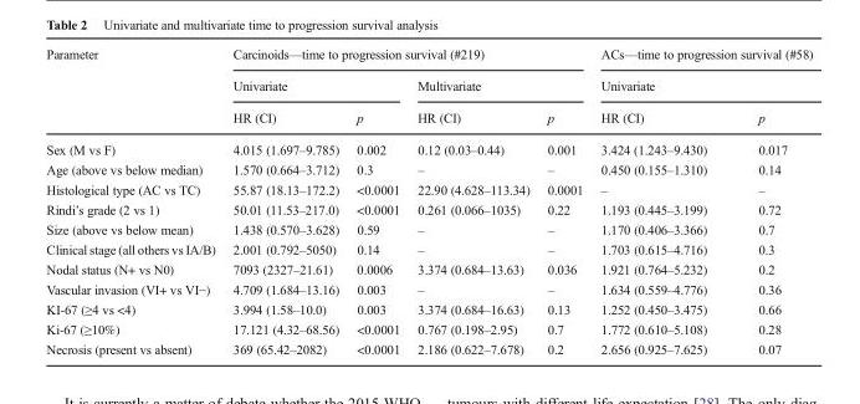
<table><thead><tr><td rowspan="3">Parameter</td><td colspan="4">Carcinoids—time to progression survival (#219)</td><td rowspan="2" colspan="2">ACs—time to progression survival (#58) Univariate</td></tr><tr><td colspan="2">Univariate</td><td colspan="2">Multivariate</td></tr><tr><td>HR (CI)</td><td>p</td><td>HR (CI)</td><td>p</td><td>HR (CI)</td><td>p</td></tr></thead><tbody><tr><td>Sex (M vs F)</td><td>4.015 (1.697–9.785)</td><td>0.002</td><td>0.12 (0.03–0.44)</td><td>0.001</td><td>3.424 (1.243–9.430)</td><td>0.017</td></tr><tr><td>Age (above vs below median)</td><td>1.570 (0.664–3.712)</td><td>0.3</td><td>–</td><td>–</td><td>0.450 (0.155–1.310)</td><td>0.14</td></tr><tr><td>Histological type (AC vs TC)</td><td>55.87 (18.13–172.2)</td><td>&lt;0.0001</td><td>22.90 (4.628–113.34)</td><td>0.0001</td><td>–</td><td>–</td></tr><tr><td>Rindi’s grade (2 vs 1)</td><td>50.01 (11.53–217.0)</td><td>&lt;0.0001</td><td>0.261 (0.066–1035)</td><td>0.22</td><td>1.193 (0.445–3.199)</td><td>0.72</td></tr><tr><td>Size (above vs below mean)</td><td>1.438 (0.570–3.628)</td><td>0.59</td><td>–</td><td>–</td><td>1.170 (0.406–3.366)</td><td>0.7</td></tr><tr><td>Clinical stage (all others vs IA/B)</td><td>2.001 (0.792–5050)</td><td>0.14</td><td>–</td><td>–</td><td>1.703 (0.615–4.716)</td><td>0.3</td></tr><tr><td>Nodal status (N+ vs N0)</td><td>7093 (2327–21.61)</td><td>0.0006</td><td>3.374 (0.684–13.63)</td><td>0.036</td><td>1.921 (0.764–5.232)</td><td>0.2</td></tr><tr><td>Vascular invasion (VI+ vs VI−)</td><td>4.709 (1.684–13.16)</td><td>0.003</td><td>–</td><td>–</td><td>1.634 (0.559–4.776)</td><td>0.36</td></tr><tr><td>KI-67 (≥4 vs &lt;4)</td><td>3.994 (1.58–10.0)</td><td>0.003</td><td>3.374 (0.684–16.63)</td><td>0.13</td><td>1.252 (0.450–3.475)</td><td>0.66</td></tr><tr><td>Ki-67 (≥10%)</td><td>17.121 (4.32–68.56)</td><td>&lt;0.0001</td><td>0.767 (0.198–2.95)</td><td>0.7</td><td>1.772 (0.610–5.108)</td><td>0.28</td></tr><tr><td>Necrosis (present vs absent)</td><td>369 (65.42–2082)</td><td>&lt;0.0001</td><td>2.186 (0.622–7.678)</td><td>0.2</td><td>2.656 (0.925–7.625)</td><td>0.07</td></tr></tbody></table>